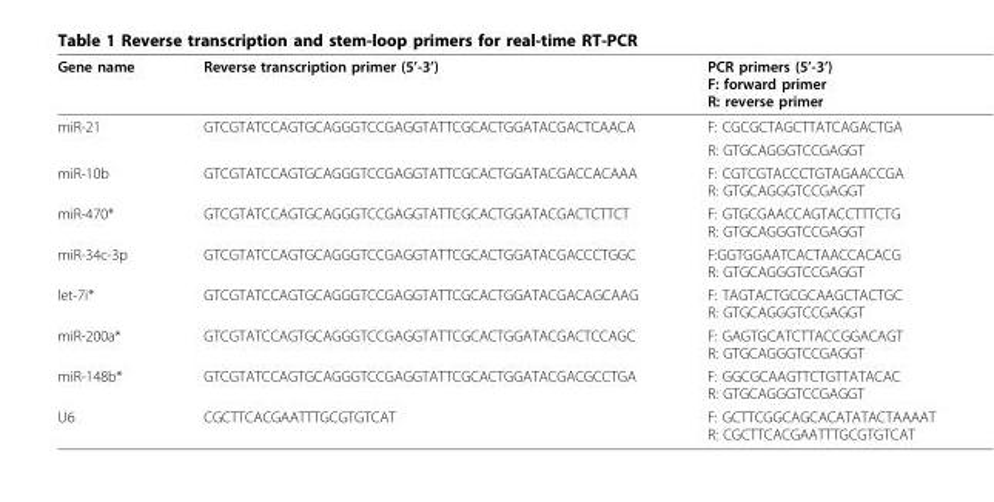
<table><thead><tr><td>Gene name</td><td>Reverse transcription primer (5’-3’)</td><td>PCR primers (5’-3’) F: forward primer R: reverse primer</td></tr></thead><tbody><tr><td rowspan="2">miR-21</td><td>GTCGTATCCAGTGCAGGGTCCGAGGTATTCGCACTGGATACGACTCAACA</td><td>F: CGCGCTAGCTTATCAGACTGA</td></tr><tr><td></td><td>R: GTGCAGGGTCCGAGGT</td></tr><tr><td>miR-10b</td><td>GTCGTATCCAGTGCAGGGTCCGAGGTATTCGCACTGGATACGACCACAAA</td><td>F: CGTCGTACCCTGTAGAACCGA R: GTGCAGGGTCCGAGGT</td></tr><tr><td>miR-470*</td><td>GTCGTATCCAGTGCAGGGTCCGAGGTATTCGCACTGGATACGACTCTTCT</td><td>F: GTGCGAACCAGTACCTTTCTG R: GTGCAGGGTCCGAGGT</td></tr><tr><td>miR-34c-3p</td><td>GTCGTATCCAGTGCAGGGTCCGAGGTATTCGCACTGGATACGACCCTGGC</td><td>F:GGTGGAATCACTAACCACACG R: GTGCAGGGTCCGAGGT</td></tr><tr><td>let-7i*</td><td>GTCGTATCCAGTGCAGGGTCCGAGGTATTCGCACTGGATACGACAGCAAG</td><td>F: TAGTACTGCGCAAGCTACTGC R: GTGCAGGGTCCGAGGT</td></tr><tr><td>miR-200a*</td><td>GTCGTATCCAGTGCAGGGTCCGAGGTATTCGCACTGGATACGACTCCAGC</td><td>F: GAGTGCATCTTACCGGACAGT R: GTGCAGGGTCCGAGGT</td></tr><tr><td>miR-148b*</td><td>GTCGTATCCAGTGCAGGGTCCGAGGTATTCGCACTGGATACGACGCCTGA</td><td>F: GGCGCAAGTTCTGTTATACAC R: GTGCAGGGTCCGAGGT</td></tr><tr><td>U6</td><td>CGCTTCACGAATTTGCGTGTCAT</td><td>F: GCTTCGGCAGCACATATACTAAAAT R: CGCTTCACGAATTTGCGTGTCAT</td></tr></tbody></table>